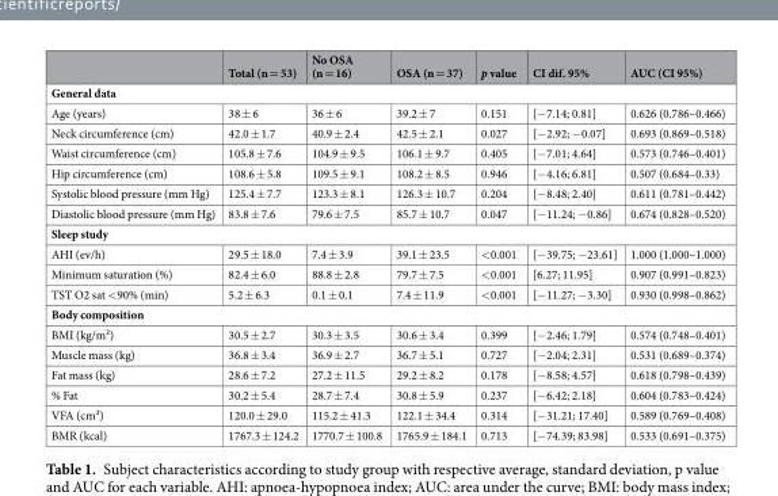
<table><thead><tr><td></td><td>Total (n = 53)</td><td>No OSA (n = 16)</td><td>OSA (n = 37)</td><td>p value</td><td>CI dif. 95%</td><td>AUC (CI 95%)</td></tr></thead><tbody><tr><td colspan="7">General data</td></tr><tr><td>Age (years)</td><td>38 ± 6</td><td>36 ± 6</td><td>39.2 ± 7</td><td>0.151</td><td>[−7.14; 0.81]</td><td>0.626 (0.786–0.466)</td></tr><tr><td>Neck circumference (cm)</td><td>42.0 ± 1.7</td><td>40.9 ± 2.4</td><td>42.5 ± 2.1</td><td>0.027</td><td>[−2.92; −0.07]</td><td>0.693 (0.869–0.518)</td></tr><tr><td>Waist circumference (cm)</td><td>105.8 ± 7.6</td><td>104.9 ± 9.5</td><td>106.1 ± 9.7</td><td>0.405</td><td>[−7.01; 4.64]</td><td>0.573 (0.746–0.401)</td></tr><tr><td>Hip circumference (cm)</td><td>108.6 ± 5.8</td><td>109.5 ± 9.1</td><td>108.2 ± 8.5</td><td>0.946</td><td>[−4.16; 6.81]</td><td>0.507 (0.684–0.33)</td></tr><tr><td>Systolic blood pressure (mm Hg)</td><td>125.4 ± 7.7</td><td>123.3 ± 8.1</td><td>126.3 ± 10.7</td><td>0.204</td><td>[−8.48; 2.40]</td><td>0.611 (0.781–0.442)</td></tr><tr><td>Diastolic blood pressure (mm Hg)</td><td>83.8 ± 7.6</td><td>79.6 ± 7.5</td><td>85.7 ± 10.7</td><td>0.047</td><td>[−11.24; −0.86]</td><td>0.674 (0.828–0.520)</td></tr><tr><td colspan="7">Sleep study</td></tr><tr><td>AHI (ev/h)</td><td>29.5 ± 18.0</td><td>7.4 ± 3.9</td><td>39.1 ± 23.5</td><td>&lt;0.001</td><td>[−39.75; −23.61]</td><td>1.000 (1.000–1.000)</td></tr><tr><td>Minimum saturation (%)</td><td>82.4 ± 6.0</td><td>88.8 ± 2.8</td><td>79.7 ± 7.5</td><td>&lt;0.001</td><td>[6.27; 11.95]</td><td>0.907 (0.991–0.823)</td></tr><tr><td>TST O2 sat &lt;90% (min)</td><td>5.2 ± 6.3</td><td>0.1 ± 0.1</td><td>7.4 ± 11.9</td><td>&lt;0.001</td><td>[−11.27; −3.30]</td><td>0.930 (0.998–0.862)</td></tr><tr><td colspan="7">Body composition</td></tr><tr><td>BMI (kg/m²)</td><td>30.5 ± 2.7</td><td>30.3 ± 3.5</td><td>30.6 ± 3.4</td><td>0.399</td><td>[−2.46; 1.79]</td><td>0.574 (0.748–0.401)</td></tr><tr><td>Muscle mass (kg)</td><td>36.8 ± 3.4</td><td>36.9 ± 2.7</td><td>36.7 ± 5.1</td><td>0.727</td><td>[−2.04; 2.31]</td><td>0.531 (0.689–0.374)</td></tr><tr><td>Fat mass (kg)</td><td>28.6 ± 7.2</td><td>27.2 ± 11.5</td><td>29.2 ± 8.2</td><td>0.178</td><td>[−8.58; 4.57]</td><td>0.618 (0.798–0.439)</td></tr><tr><td>% Fat</td><td>30.2 ± 5.4</td><td>28.7 ± 7.4</td><td>30.8 ± 5.9</td><td>0.237</td><td>[−6.42; 2.18]</td><td>0.604 (0.783–0.424)</td></tr><tr><td>VFA (cm²)</td><td>120.0 ± 29.0</td><td>115.2 ± 41.3</td><td>122.1 ± 34.4</td><td>0.314</td><td>[−31.21; 17.40]</td><td>0.589 (0.769–0.408)</td></tr><tr><td>BMR (kcal)</td><td>1767.3 ± 124.2</td><td>1770.7 ± 100.8</td><td>1765.9 ± 184.1</td><td>0.713</td><td>[−74.39; 83.98]</td><td>0.533 (0.691–0.375)</td></tr></tbody></table>